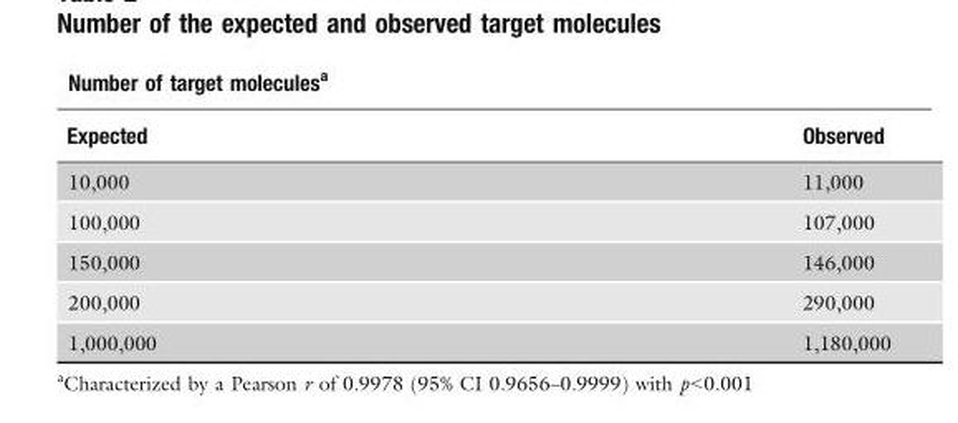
<table><thead><tr><td colspan="2">Number of target molecules<sup>a</sup></td></tr><tr><td>Expected</td><td>Observed</td></tr></thead><tbody><tr><td>10,000</td><td>11,000</td></tr><tr><td>100,000</td><td>107,000</td></tr><tr><td>150,000</td><td>146,000</td></tr><tr><td>200,000</td><td>290,000</td></tr><tr><td>1,000,000</td><td>1,180,000</td></tr></tbody></table>